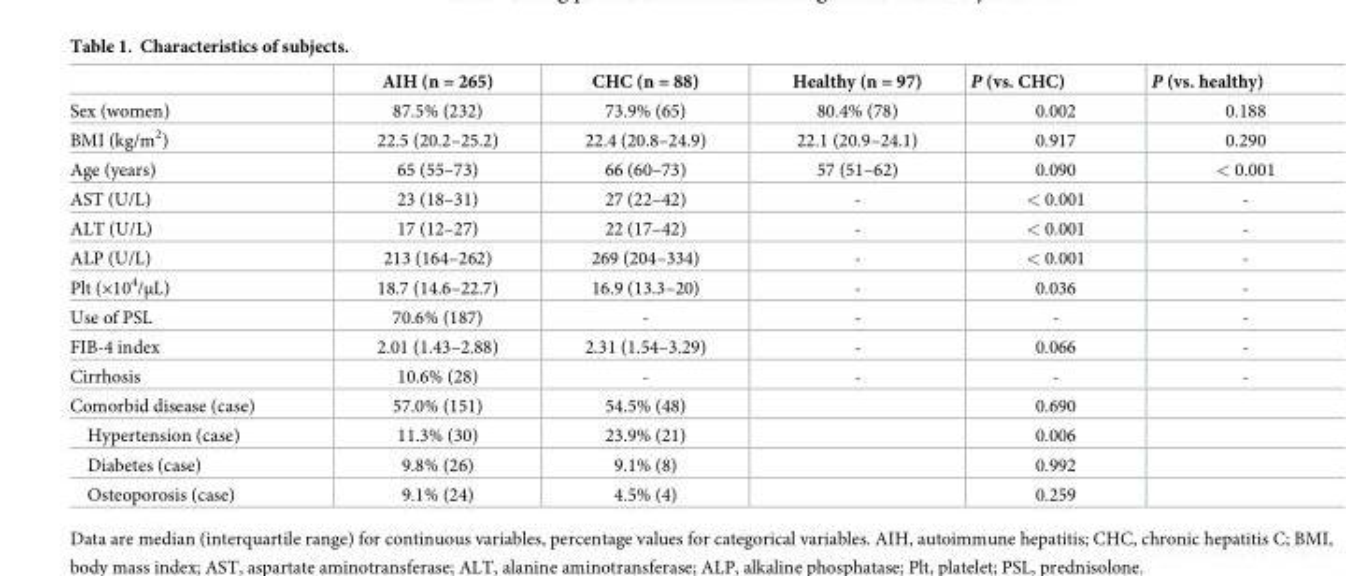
<table><thead><tr><td></td><td>AIH (n = 265)</td><td>CHC (n = 88)</td><td>Healthy (n = 97)</td><td>P (vs. CHC)</td><td>P (vs. healthy)</td></tr></thead><tbody><tr><td>Sex (women)</td><td>87.5% (232)</td><td>73.9% (65)</td><td>80.4% (78)</td><td>0.002</td><td>0.188</td></tr><tr><td>BMI (kg/m<sup>2</sup>)</td><td>22.5 (20.2–25.2)</td><td>22.4 (20.8–24.9)</td><td>22.1 (20.9–24.1)</td><td>0.917</td><td>0.290</td></tr><tr><td>Age (years)</td><td>65 (55–73)</td><td>66 (60–73)</td><td>57 (51–62)</td><td>0.090</td><td>&lt; 0.001</td></tr><tr><td>AST (U/L)</td><td>23 (18–31)</td><td>27 (22–42)</td><td>-</td><td>&lt; 0.001</td><td>-</td></tr><tr><td>ALT (U/L)</td><td>17 (12–27)</td><td>22 (17–42)</td><td>-</td><td>&lt; 0.001</td><td>-</td></tr><tr><td>ALP (U/L)</td><td>213 (164–262)</td><td>269 (204–334)</td><td>-</td><td>&lt; 0.001</td><td>-</td></tr><tr><td>Plt (×10<sup>4</sup>/μL)</td><td>18.7 (14.6–22.7)</td><td>16.9 (13.3–20)</td><td>-</td><td>0.036</td><td>-</td></tr><tr><td>Use of PSL</td><td>70.6% (187)</td><td>-</td><td>-</td><td>-</td><td>-</td></tr><tr><td>FIB-4 index</td><td>2.01 (1.43–2.88)</td><td>2.31 (1.54–3.29)</td><td>-</td><td>0.066</td><td>-</td></tr><tr><td>Cirrhosis</td><td>10.6% (28)</td><td>-</td><td>-</td><td>-</td><td>-</td></tr><tr><td>Comorbid disease (case)</td><td>57.0% (151)</td><td>54.5% (48)</td><td></td><td>0.690</td><td></td></tr><tr><td>Hypertension (case)</td><td>11.3% (30)</td><td>23.9% (21)</td><td></td><td>0.006</td><td></td></tr><tr><td>Diabetes (case)</td><td>9.8% (26)</td><td>9.1% (8)</td><td></td><td>0.992</td><td></td></tr><tr><td>Osteoporosis (case)</td><td>9.1% (24)</td><td>4.5% (4)</td><td></td><td>0.259</td><td></td></tr></tbody></table>